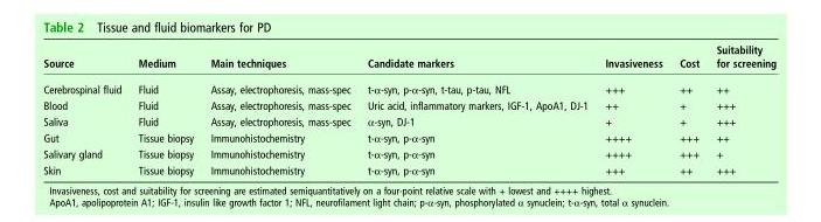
<table><thead><tr><td>Source</td><td>Medium</td><td>Main techniques</td><td>Candidate markers</td><td>Invasiveness</td><td>Cost</td><td>Suitability for screening</td></tr></thead><tbody><tr><td>Cerebrospinal fluid</td><td>Fluid</td><td>Assay, electrophoresis, mass-spec</td><td>t-α-syn, p-α-syn, t-tau, p-tau, NFL</td><td>+++</td><td>++</td><td>++</td></tr><tr><td>Blood</td><td>Fluid</td><td>Assay, electrophoresis, mass-spec</td><td>Uric acid, inflammatory markers, IGF-1, ApoA1, DJ-1</td><td>++</td><td>+</td><td>+++</td></tr><tr><td>Saliva</td><td>Fluid</td><td>Assay, electrophoresis, mass-spec</td><td>α-syn, DJ-1</td><td>+</td><td>+</td><td>+++</td></tr><tr><td>Gut</td><td>Tissue biopsy</td><td>Immunohistochemistry</td><td>t-α-syn, p-α-syn</td><td>++++</td><td>+++</td><td>++</td></tr><tr><td>Salivary gland</td><td>Tissue biopsy</td><td>Immunohistochemistry</td><td>t-α-syn, p-α-syn</td><td>++++</td><td>+++</td><td>+</td></tr><tr><td>Skin</td><td>Tissue biopsy</td><td>Immunohistochemistry</td><td>t-α-syn, p-α-syn</td><td>+++</td><td>++</td><td>+++</td></tr></tbody></table>